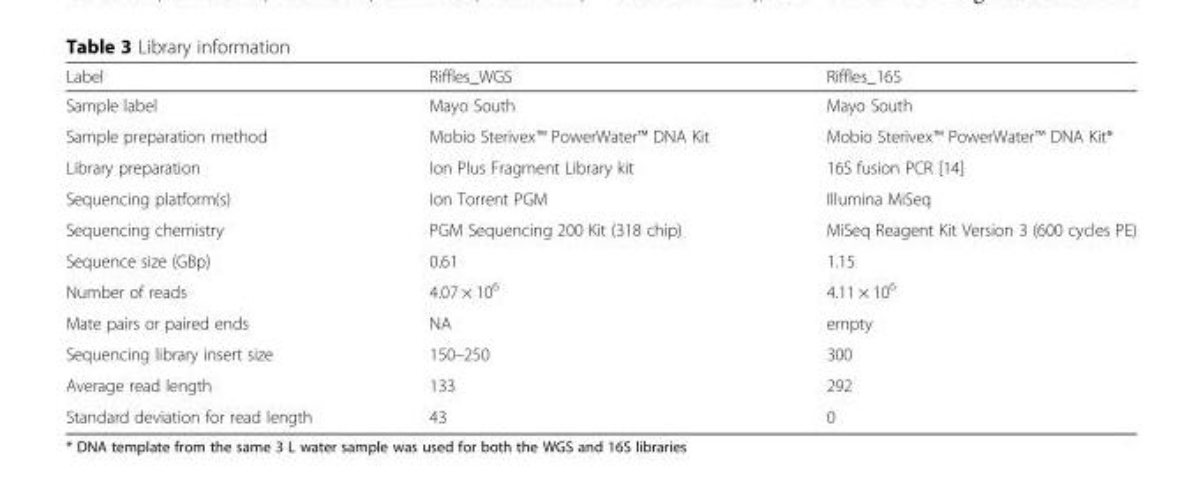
<table><thead><tr><td>Label</td><td>Riffles_WGS</td><td>Riffles_16S</td></tr></thead><tbody><tr><td>Sample label</td><td>Mayo South</td><td>Mayo South</td></tr><tr><td>Sample preparation method</td><td>Mobio Sterivex™ PowerWater™ DNA Kit</td><td>Mobio Sterivex™ PowerWater™ DNA Kit*</td></tr><tr><td>Library preparation</td><td>Ion Plus Fragment Library kit</td><td>16S fusion PCR [14]</td></tr><tr><td>Sequencing platform(s)</td><td>Ion Torrent PGM</td><td>Illumina MiSeq</td></tr><tr><td>Sequencing chemistry</td><td>PGM Sequencing 200 Kit (318 chip)</td><td>MiSeq Reagent Kit Version 3 (600 cycles PE)</td></tr><tr><td>Sequence size (GBp)</td><td>0.61</td><td>1.15</td></tr><tr><td>Number of reads</td><td>4.07 × 10<sup>6</sup></td><td>4.11 × 10<sup>6</sup></td></tr><tr><td>Mate pairs or paired ends</td><td>NA</td><td>empty</td></tr><tr><td>Sequencing library insert size</td><td>150–250</td><td>300</td></tr><tr><td>Average read length</td><td>133</td><td>292</td></tr><tr><td>Standard deviation for read length</td><td>43</td><td>0</td></tr></tbody></table>